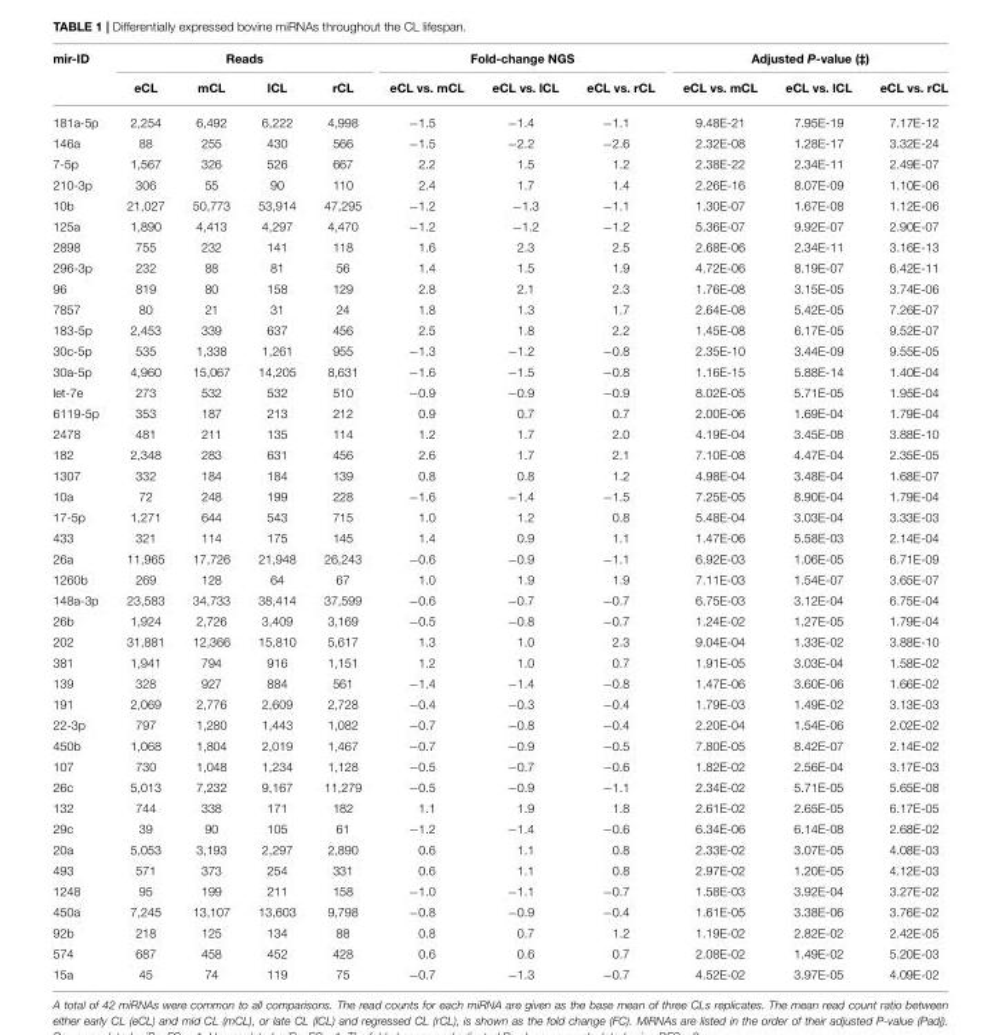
<table><thead><tr><td rowspan="2">mir-ID</td><td colspan="4">Reads</td><td colspan="3">Fold-change NGS</td><td colspan="3">Adjusted P-value (‡)</td></tr><tr><td>eCL</td><td>mCL</td><td>lCL</td><td>rCL</td><td>eCL vs. mCL</td><td>eCL vs. lCL</td><td>eCL vs. rCL</td><td>eCL vs. mCL</td><td>eCL vs. lCL</td><td>eCL vs. rCL</td></tr></thead><tbody><tr><td>181a-5p</td><td>2,254</td><td>6,492</td><td>6,222</td><td>4,998</td><td>−1.5</td><td>−1.4</td><td>−1.1</td><td>9.48E-21</td><td>7.95E-19</td><td>7.17E-12</td></tr><tr><td>146a</td><td>88</td><td>255</td><td>430</td><td>566</td><td>−1.5</td><td>−2.2</td><td>−2.6</td><td>2.32E-08</td><td>1.28E-17</td><td>3.32E-24</td></tr><tr><td>7-5p</td><td>1,567</td><td>326</td><td>526</td><td>667</td><td>2.2</td><td>1.5</td><td>1.2</td><td>2.38E-22</td><td>2.34E-11</td><td>2.49E-07</td></tr><tr><td>210-3p</td><td>306</td><td>55</td><td>90</td><td>110</td><td>2.4</td><td>1.7</td><td>1.4</td><td>2.26E-16</td><td>8.07E-09</td><td>1.10E-06</td></tr><tr><td>10b</td><td>21,027</td><td>50,773</td><td>53,914</td><td>47,295</td><td>−1.2</td><td>−1.3</td><td>−1.1</td><td>1.30E-07</td><td>1.67E-08</td><td>1.12E-06</td></tr><tr><td>125a</td><td>1,890</td><td>4,413</td><td>4,297</td><td>4,470</td><td>−1.2</td><td>−1.2</td><td>−1.2</td><td>5.36E-07</td><td>9.92E-07</td><td>2.90E-07</td></tr><tr><td>2898</td><td>755</td><td>232</td><td>141</td><td>118</td><td>1.6</td><td>2.3</td><td>2.5</td><td>2.68E-06</td><td>2.34E-11</td><td>3.16E-13</td></tr><tr><td>296-3p</td><td>232</td><td>88</td><td>81</td><td>56</td><td>1.4</td><td>1.5</td><td>1.9</td><td>4.72E-06</td><td>8.19E-07</td><td>6.42E-11</td></tr><tr><td>96</td><td>819</td><td>80</td><td>158</td><td>129</td><td>2.8</td><td>2.1</td><td>2.3</td><td>1.76E-08</td><td>3.15E-05</td><td>3.74E-06</td></tr><tr><td>7857</td><td>80</td><td>21</td><td>31</td><td>24</td><td>1.8</td><td>1.3</td><td>1.7</td><td>2.64E-08</td><td>5.42E-05</td><td>7.26E-07</td></tr><tr><td>183-5p</td><td>2,453</td><td>339</td><td>637</td><td>456</td><td>2.5</td><td>1.8</td><td>2.2</td><td>1.45E-08</td><td>6.17E-05</td><td>9.52E-07</td></tr><tr><td>30c-5p</td><td>535</td><td>1,338</td><td>1,261</td><td>955</td><td>−1.3</td><td>−1.2</td><td>−0.8</td><td>2.35E-10</td><td>3.44E-09</td><td>9.55E-05</td></tr><tr><td>30a-5p</td><td>4,960</td><td>15,067</td><td>14,205</td><td>8,631</td><td>−1.6</td><td>−1.5</td><td>−0.8</td><td>1.16E-15</td><td>5.88E-14</td><td>1.40E-04</td></tr><tr><td>let-7e</td><td>273</td><td>532</td><td>532</td><td>510</td><td>−0.9</td><td>−0.9</td><td>−0.9</td><td>8.02E-05</td><td>5.71E-05</td><td>1.95E-04</td></tr><tr><td>6119-5p</td><td>353</td><td>187</td><td>213</td><td>212</td><td>0.9</td><td>0.7</td><td>0.7</td><td>2.00E-06</td><td>1.69E-04</td><td>1.79E-04</td></tr><tr><td>2478</td><td>481</td><td>211</td><td>135</td><td>114</td><td>1.2</td><td>1.7</td><td>2.0</td><td>4.19E-04</td><td>3.45E-08</td><td>3.88E-10</td></tr><tr><td>182</td><td>2,348</td><td>283</td><td>631</td><td>456</td><td>2.6</td><td>1.7</td><td>2.1</td><td>7.10E-08</td><td>4.47E-04</td><td>2.35E-05</td></tr><tr><td>1307</td><td>332</td><td>184</td><td>184</td><td>139</td><td>0.8</td><td>0.8</td><td>1.2</td><td>4.98E-04</td><td>3.48E-04</td><td>1.68E-07</td></tr><tr><td>10a</td><td>72</td><td>248</td><td>199</td><td>228</td><td>−1.6</td><td>−1.4</td><td>−1.5</td><td>7.25E-05</td><td>8.90E-04</td><td>1.79E-04</td></tr><tr><td>17-5p</td><td>1,271</td><td>644</td><td>543</td><td>715</td><td>1.0</td><td>1.2</td><td>0.8</td><td>5.48E-04</td><td>3.03E-04</td><td>3.33E-03</td></tr><tr><td>433</td><td>321</td><td>114</td><td>175</td><td>145</td><td>1.4</td><td>0.9</td><td>1.1</td><td>1.47E-06</td><td>5.58E-03</td><td>2.14E-04</td></tr><tr><td>26a</td><td>11,965</td><td>17,726</td><td>21,948</td><td>26,243</td><td>−0.6</td><td>−0.9</td><td>−1.1</td><td>6.92E-03</td><td>1.06E-05</td><td>6.71E-09</td></tr><tr><td>1260b</td><td>269</td><td>128</td><td>64</td><td>67</td><td>1.0</td><td>1.9</td><td>1.9</td><td>7.11E-03</td><td>1.54E-07</td><td>3.65E-07</td></tr><tr><td>148a-3p</td><td>23,583</td><td>34,733</td><td>38,414</td><td>37,599</td><td>−0.6</td><td>−0.7</td><td>−0.7</td><td>6.75E-03</td><td>3.12E-04</td><td>6.75E-04</td></tr><tr><td>26b</td><td>1,924</td><td>2,726</td><td>3,409</td><td>3,169</td><td>−0.5</td><td>−0.8</td><td>−0.7</td><td>1.24E-02</td><td>1.27E-05</td><td>1.79E-04</td></tr><tr><td>202</td><td>31,881</td><td>12,366</td><td>15,810</td><td>5,617</td><td>1.3</td><td>1.0</td><td>2.3</td><td>9.04E-04</td><td>1.33E-02</td><td>3.88E-10</td></tr><tr><td>381</td><td>1,941</td><td>794</td><td>916</td><td>1,151</td><td>1.2</td><td>1.0</td><td>0.7</td><td>1.91E-05</td><td>3.03E-04</td><td>1.58E-02</td></tr><tr><td>139</td><td>328</td><td>927</td><td>884</td><td>561</td><td>−1.4</td><td>−1.4</td><td>−0.8</td><td>1.47E-06</td><td>3.60E-06</td><td>1.66E-02</td></tr><tr><td>191</td><td>2,069</td><td>2,776</td><td>2,609</td><td>2,728</td><td>−0.4</td><td>−0.3</td><td>−0.4</td><td>1.79E-03</td><td>1.49E-02</td><td>3.13E-03</td></tr><tr><td>22-3p</td><td>797</td><td>1,280</td><td>1,443</td><td>1,082</td><td>−0.7</td><td>−0.8</td><td>−0.4</td><td>2.20E-04</td><td>1.54E-06</td><td>2.02E-02</td></tr><tr><td>450b</td><td>1,068</td><td>1,804</td><td>2,019</td><td>1,467</td><td>−0.7</td><td>−0.9</td><td>−0.5</td><td>7.80E-05</td><td>8.42E-07</td><td>2.14E-02</td></tr><tr><td>107</td><td>730</td><td>1,048</td><td>1,234</td><td>1,128</td><td>−0.5</td><td>−0.7</td><td>−0.6</td><td>1.82E-02</td><td>2.56E-04</td><td>3.17E-03</td></tr><tr><td>26c</td><td>5,013</td><td>7,232</td><td>9,167</td><td>11,279</td><td>−0.5</td><td>−0.9</td><td>−1.1</td><td>2.34E-02</td><td>5.71E-05</td><td>5.65E-08</td></tr><tr><td>132</td><td>744</td><td>338</td><td>171</td><td>182</td><td>1.1</td><td>1.9</td><td>1.8</td><td>2.61E-02</td><td>2.65E-05</td><td>6.17E-05</td></tr><tr><td>29c</td><td>39</td><td>90</td><td>105</td><td>61</td><td>−1.2</td><td>−1.4</td><td>−0.6</td><td>6.34E-06</td><td>6.14E-08</td><td>2.68E-02</td></tr><tr><td>20a</td><td>5,053</td><td>3,193</td><td>2,297</td><td>2,890</td><td>0.6</td><td>1.1</td><td>0.8</td><td>2.33E-02</td><td>3.07E-05</td><td>4.08E-03</td></tr><tr><td>493</td><td>571</td><td>373</td><td>254</td><td>331</td><td>0.6</td><td>1.1</td><td>0.8</td><td>2.97E-02</td><td>1.20E-05</td><td>4.12E-03</td></tr><tr><td>1248</td><td>95</td><td>199</td><td>211</td><td>158</td><td>−1.0</td><td>−1.1</td><td>−0.7</td><td>1.58E-03</td><td>3.92E-04</td><td>3.27E-02</td></tr><tr><td>450a</td><td>7,245</td><td>13,107</td><td>13,603</td><td>9,798</td><td>−0.8</td><td>−0.9</td><td>−0.4</td><td>1.61E-05</td><td>3.38E-06</td><td>3.76E-02</td></tr><tr><td>92b</td><td>218</td><td>125</td><td>134</td><td>88</td><td>0.8</td><td>0.7</td><td>1.2</td><td>1.19E-02</td><td>2.82E-02</td><td>2.42E-05</td></tr><tr><td>574</td><td>687</td><td>458</td><td>452</td><td>428</td><td>0.6</td><td>0.6</td><td>0.7</td><td>2.08E-02</td><td>1.49E-02</td><td>5.20E-03</td></tr><tr><td>15a</td><td>45</td><td>74</td><td>119</td><td>75</td><td>−0.7</td><td>−1.3</td><td>−0.7</td><td>4.52E-02</td><td>3.97E-05</td><td>4.09E-02</td></tr></tbody></table>